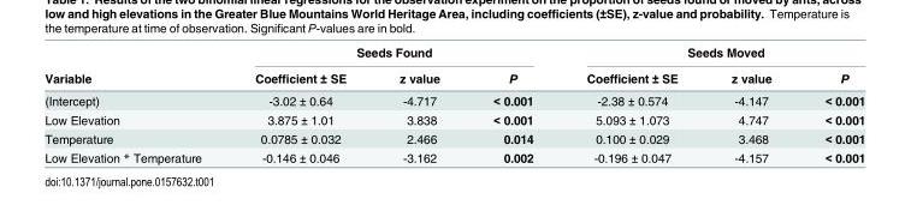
<table><thead><tr><td rowspan="2">Variable</td><td colspan="3">Seeds Found</td><td colspan="3">Seeds Moved</td></tr><tr><td>Coefficient ± SE</td><td>z value</td><td>P</td><td>Coefficient ± SE</td><td>z value</td><td>P</td></tr></thead><tbody><tr><td>(Intercept)</td><td>-3.02 ± 0.64</td><td>-4.717</td><td>&lt; 0.001</td><td>-2.38 ± 0.574</td><td>-4.147</td><td>&lt; 0.001</td></tr><tr><td>Low Elevation</td><td>3.875 ± 1.01</td><td>3.838</td><td>&lt; 0.001</td><td>5.093 ± 1.073</td><td>4.747</td><td>&lt; 0.001</td></tr><tr><td>Temperature</td><td>0.0785 ± 0.032</td><td>2.466</td><td>0.014</td><td>0.100 ± 0.029</td><td>3.468</td><td>&lt; 0.001</td></tr><tr><td>Low Elevation * Temperature</td><td>-0.146 ± 0.046</td><td>-3.162</td><td>0.002</td><td>-0.196 ± 0.047</td><td>-4.157</td><td>&lt; 0.001</td></tr></tbody></table>